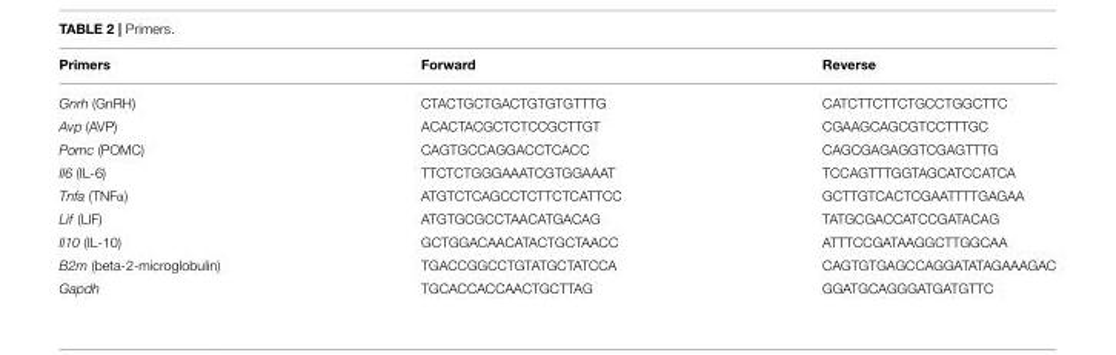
<table><thead><tr><td>Primers</td><td>Forward</td><td>Reverse</td></tr></thead><tbody><tr><td>Gnrh (GnRH)</td><td>CTACTGCTGACTGTGTGTTTG</td><td>CATCTTCTTCTGCCTGGCTTC</td></tr><tr><td>Avp (AVP)</td><td>ACACTACGCTCTCCGCTTGT</td><td>CGAAGCAGCGTCCTTTGC</td></tr><tr><td>Pomc (POMC)</td><td>CAGTGCCAGGACCTCACC</td><td>CAGCGAGAGGTCGAGTTTG</td></tr><tr><td>Il6 (IL-6)</td><td>TTCTCTGGGAAATCGTGGAAAT</td><td>TCCAGTTTGGTAGCATCCATCA</td></tr><tr><td>Tnfa (TNFα)</td><td>ATGTCTCAGCCTCTTCTCATTCC</td><td>GCTTGTCACTCGAATTTTGAGAA</td></tr><tr><td>Lif (LIF)</td><td>ATGTGCGCCTAACATGACAG</td><td>TATGCGACCATCCGATACAG</td></tr><tr><td>Il10 (IL-10)</td><td>GCTGGACAACATACTGCTAACC</td><td>ATTTCCGATAAGGCTTGGCAA</td></tr><tr><td>B2m (beta-2-microglobulin)</td><td>TGACCGGCCTGTATGCTATCCA</td><td>CAGTGTGAGCCAGGATATAGAAAGAC</td></tr><tr><td>Gapdh</td><td>TGCACCACCAACTGCTTAG</td><td>GGATGCAGGGATGATGTTC</td></tr></tbody></table>